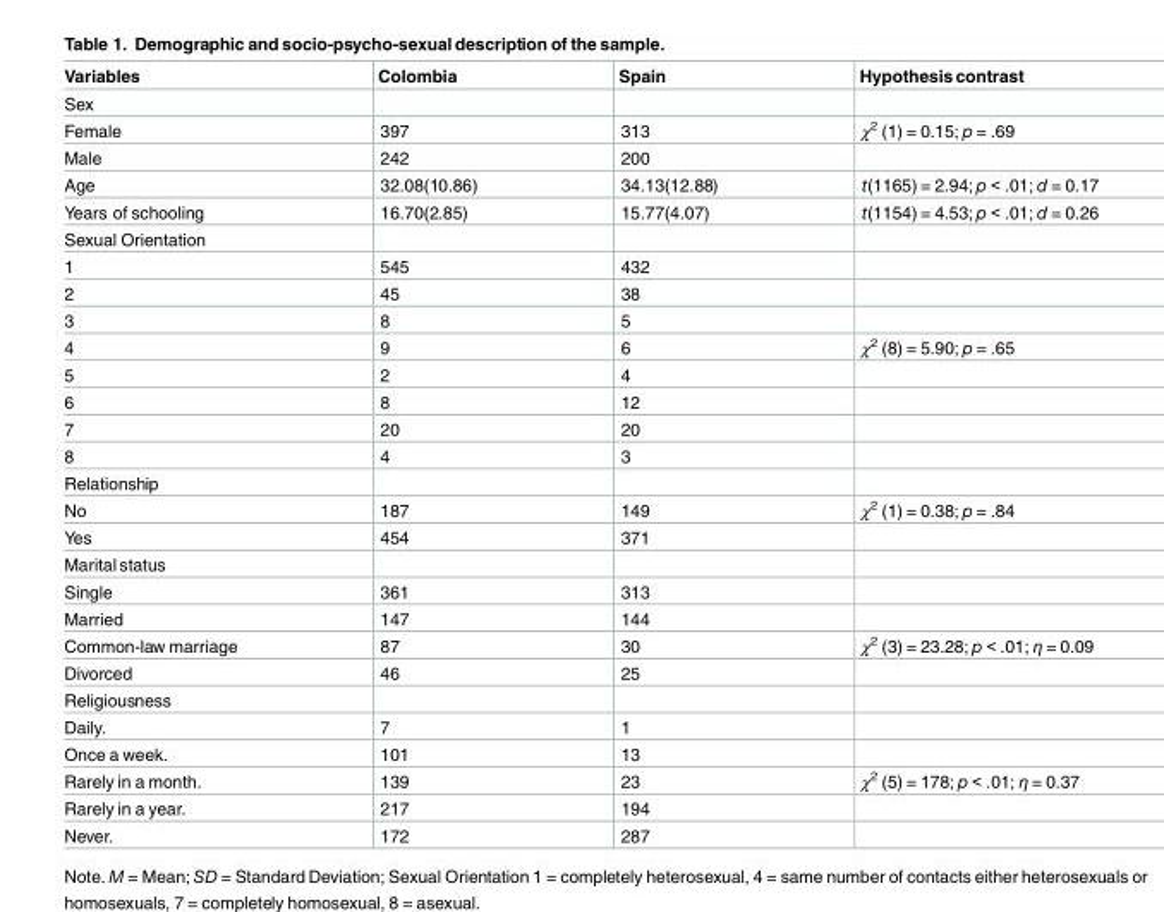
<table><thead><tr><td>Variables</td><td>Colombia</td><td>Spain</td><td>Hypothesis contrast</td></tr></thead><tbody><tr><td colspan="4">Sex</td></tr><tr><td>Female</td><td>397</td><td>313</td><td>χ<sup>2</sup> (1) = 0.15; p = .69</td></tr><tr><td>Male</td><td>242</td><td>200</td><td></td></tr><tr><td>Age</td><td>32.08(10.86)</td><td>34.13(12.88)</td><td>t(1165) = 2.94; p &lt; .01; d = 0.17</td></tr><tr><td>Years of schooling</td><td>16.70(2.85)</td><td>15.77(4.07)</td><td>t(1154) = 4.53; p &lt; .01; d = 0.26</td></tr><tr><td colspan="4">Sexual Orientation</td></tr><tr><td>1</td><td>545</td><td>432</td><td></td></tr><tr><td>2</td><td>45</td><td>38</td><td></td></tr><tr><td>3</td><td>8</td><td>5</td><td></td></tr><tr><td>4</td><td>9</td><td>6</td><td>χ<sup>2</sup> (8) = 5.90; p = .65</td></tr><tr><td>5</td><td>2</td><td>4</td><td></td></tr><tr><td>6</td><td>8</td><td>12</td><td></td></tr><tr><td>7</td><td>20</td><td>20</td><td></td></tr><tr><td>8</td><td>4</td><td>3</td><td></td></tr><tr><td colspan="4">Relationship</td></tr><tr><td>No</td><td>187</td><td>149</td><td>χ<sup>2</sup> (1) = 0.38; p = .84</td></tr><tr><td>Yes</td><td>454</td><td>371</td><td></td></tr><tr><td colspan="4">Marital status</td></tr><tr><td>Single</td><td>361</td><td>313</td><td></td></tr><tr><td>Married</td><td>147</td><td>144</td><td></td></tr><tr><td>Common-law marriage</td><td>87</td><td>30</td><td>χ<sup>2</sup> (3) = 23.28; p &lt; .01; η = 0.09</td></tr><tr><td>Divorced</td><td>46</td><td>25</td><td></td></tr><tr><td colspan="4">Religiousness</td></tr><tr><td>Daily.</td><td>7</td><td>1</td><td></td></tr><tr><td>Once a week.</td><td>101</td><td>13</td><td></td></tr><tr><td>Rarely in a month.</td><td>139</td><td>23</td><td>χ<sup>2</sup> (5) = 178; p &lt; .01; η = 0.37</td></tr><tr><td>Rarely in a year.</td><td>217</td><td>194</td><td></td></tr><tr><td>Never.</td><td>172</td><td>287</td><td></td></tr></tbody></table>